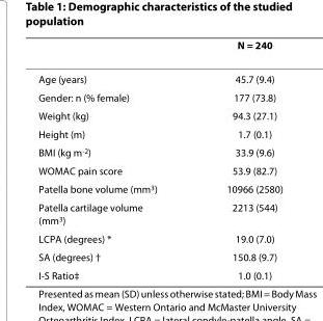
<table><thead><tr><td></td><td>N = 240</td></tr></thead><tbody><tr><td>Age (years)</td><td>45.7 (9.4)</td></tr><tr><td>Gender: n (% female)</td><td>177 (73.8)</td></tr><tr><td>Weight (kg)</td><td>94.3 (27.1)</td></tr><tr><td>Height (m)</td><td>1.7 (0.1)</td></tr><tr><td>BMI (kg m<sup>-2</sup>)</td><td>33.9 (9.6)</td></tr><tr><td>WOMAC pain score</td><td>53.9 (82.7)</td></tr><tr><td>Patella bone volume (mm<sup>3</sup>)</td><td>10966 (2580)</td></tr><tr><td>Patella cartilage volume (mm<sup>3</sup>)</td><td>2213 (544)</td></tr><tr><td>LCPA (degrees) *</td><td>19.0 (7.0)</td></tr><tr><td>SA (degrees) †</td><td>150.8 (9.7)</td></tr><tr><td>I-S Ratio‡</td><td>1.0 (0.1)</td></tr></tbody></table>